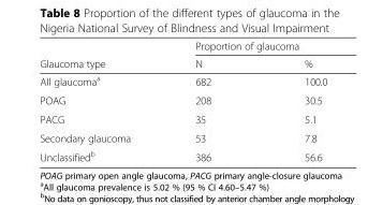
<table><thead><tr><td rowspan="2">Glaucoma type</td><td colspan="2">Proportion of glaucoma</td></tr><tr><td>N</td><td>%</td></tr></thead><tbody><tr><td>All glaucoma<sup>a</sup></td><td>682</td><td>100.0</td></tr><tr><td>POAG</td><td>208</td><td>30.5</td></tr><tr><td>PACG</td><td>35</td><td>5.1</td></tr><tr><td>Secondary glaucoma</td><td>53</td><td>7.8</td></tr><tr><td>Unclassified<sup>b</sup></td><td>386</td><td>56.6</td></tr></tbody></table>